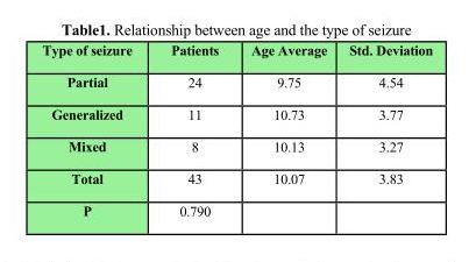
<table><thead><tr><td>Type of seizure</td><td>Patients</td><td>Age Average</td><td>Std. Deviation</td></tr></thead><tbody><tr><td>Partial</td><td>24</td><td>9.75</td><td>4.54</td></tr><tr><td>Generalized</td><td>11</td><td>10.73</td><td>3.77</td></tr><tr><td>Mixed</td><td>8</td><td>10.13</td><td>3.27</td></tr><tr><td>Total</td><td>43</td><td>10.07</td><td>3.83</td></tr><tr><td>P</td><td colspan="3">0.790</td></tr></tbody></table>